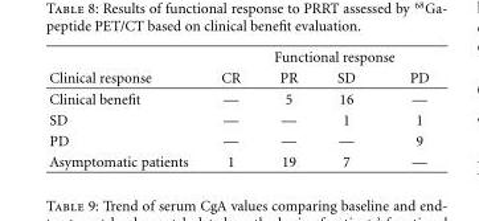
<table><thead><tr><td rowspan="2">Clinical response</td><td colspan="4">Functional response</td></tr><tr><td>CR</td><td>PR</td><td>SD</td><td>PD</td></tr></thead><tbody><tr><td>Clinical benefit</td><td>—</td><td>5</td><td>16</td><td>—</td></tr><tr><td>SD</td><td>—</td><td>—</td><td>1</td><td>1</td></tr><tr><td>PD</td><td>—</td><td>—</td><td>—</td><td>9</td></tr><tr><td>Asymptomatic patients</td><td>1</td><td>19</td><td>7</td><td>—</td></tr></tbody></table>